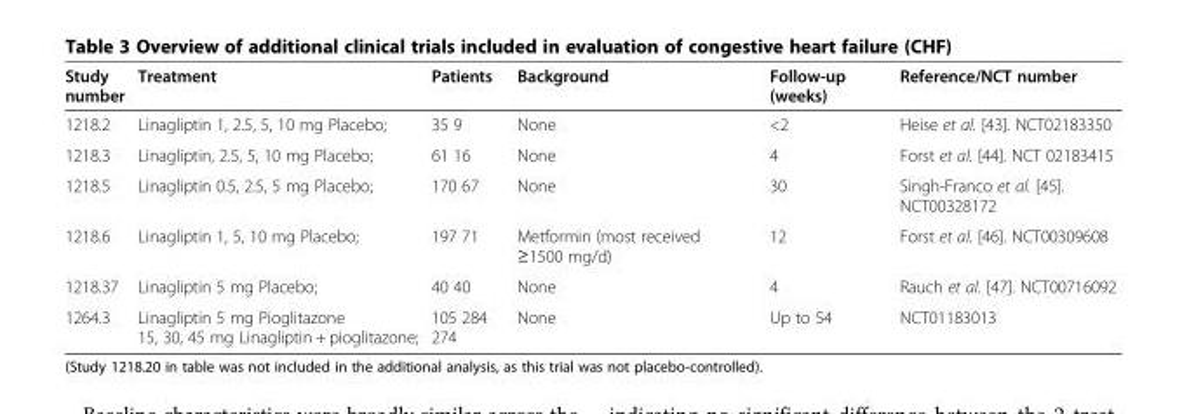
<table><thead><tr><td>Study number</td><td>Treatment</td><td>Patients</td><td>Background</td><td>Follow-up (weeks)</td><td>Reference/NCT number</td></tr></thead><tbody><tr><td>1218.2</td><td>Linagliptin 1, 2.5, 5, 10 mg Placebo;</td><td>35 9</td><td>None</td><td>&lt;2</td><td>Heise et al. [43]. NCT02183350</td></tr><tr><td>1218.3</td><td>Linagliptin, 2.5, 5, 10 mg Placebo;</td><td>61 16</td><td>None</td><td>4</td><td>Forst et al. [44]. NCT 02183415</td></tr><tr><td>1218.5</td><td>Linagliptin 0.5, 2.5, 5 mg Placebo;</td><td>170 67</td><td>None</td><td>30</td><td>Singh-Franco et al. [45]. NCT00328172</td></tr><tr><td>1218.6</td><td>Linagliptin 1, 5, 10 mg Placebo;</td><td>197 71</td><td>Metformin (most received ≥1500 mg/d)</td><td>12</td><td>Forst et al. [46]. NCT00309608</td></tr><tr><td>1218.37</td><td>Linagliptin 5 mg Placebo;</td><td>40 40</td><td>None</td><td>4</td><td>Rauch et al. [47]. NCT00716092</td></tr><tr><td>1264.3</td><td>Linagliptin 5 mg Pioglitazone 15, 30, 45 mg Linagliptin + pioglitazone;</td><td>105 284 274</td><td>None</td><td>Up to 54</td><td>NCT01183013</td></tr></tbody></table>